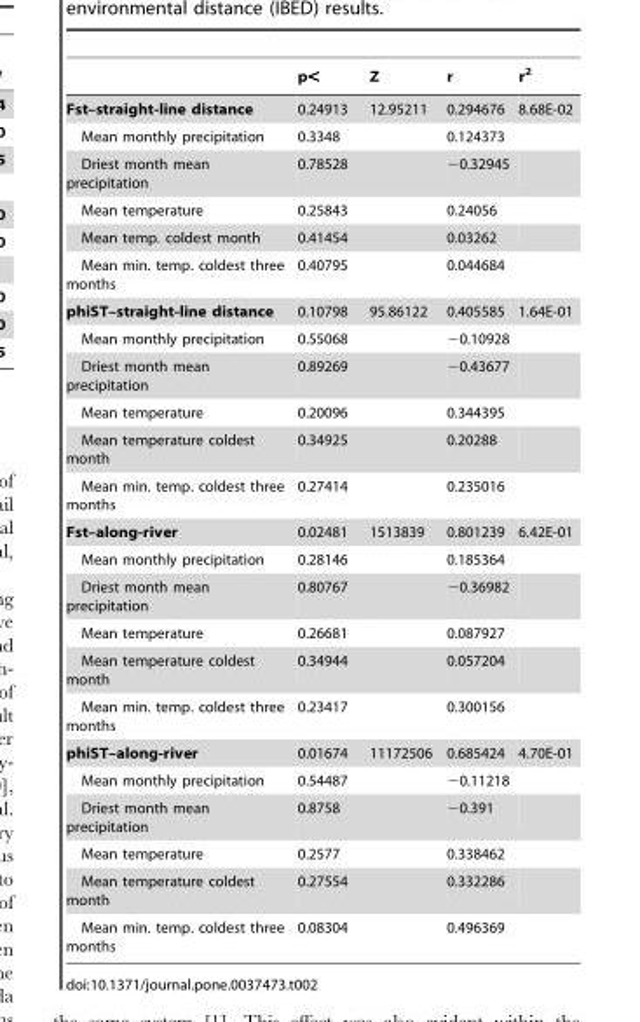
<table><thead><tr><td></td><td>p&lt;</td><td>Z</td><td>r</td><td>r<sup>2</sup></td></tr></thead><tbody><tr><td>Fst–straight-line distance</td><td>0.24913</td><td>12.95211</td><td>0.294676</td><td>8.68E-02</td></tr><tr><td>Mean monthly precipitation</td><td>0.3348</td><td></td><td>0.124373</td><td></td></tr><tr><td>Driest month mean precipitation</td><td>0.78528</td><td></td><td>−0.32945</td><td></td></tr><tr><td>Mean temperature</td><td>0.25843</td><td></td><td>0.24056</td><td></td></tr><tr><td>Mean temp. coldest month</td><td>0.41454</td><td></td><td>0.03262</td><td></td></tr><tr><td>Mean min. temp. coldest three months</td><td>0.40795</td><td></td><td>0.044684</td><td></td></tr><tr><td>phiST–straight-line distance</td><td>0.10798</td><td>95.86122</td><td>0.405585</td><td>1.64E-01</td></tr><tr><td>Mean monthly precipitation</td><td>0.55068</td><td></td><td>−0.10928</td><td></td></tr><tr><td>Driest month mean precipitation</td><td>0.89269</td><td></td><td>−0.43677</td><td></td></tr><tr><td>Mean temperature</td><td>0.20096</td><td></td><td>0.344395</td><td></td></tr><tr><td>Mean temperature coldest month</td><td>0.34925</td><td></td><td>0.20288</td><td></td></tr><tr><td>Mean min. temp. coldest three months</td><td>0.27414</td><td></td><td>0.235016</td><td></td></tr><tr><td>Fst–along-river</td><td>0.02481</td><td>1513839</td><td>0.801239</td><td>6.42E-01</td></tr><tr><td>Mean monthly precipitation</td><td>0.28146</td><td></td><td>0.185364</td><td></td></tr><tr><td>Driest month mean precipitation</td><td>0.80767</td><td></td><td>−0.36982</td><td></td></tr><tr><td>Mean temperature</td><td>0.26681</td><td></td><td>0.087927</td><td></td></tr><tr><td>Mean temperature coldest month</td><td>0.34944</td><td></td><td>0.057204</td><td></td></tr><tr><td>Mean min. temp. coldest three months</td><td>0.23417</td><td></td><td>0.300156</td><td></td></tr><tr><td>phiST–along-river</td><td>0.01674</td><td>11172506</td><td>0.685424</td><td>4.70E-01</td></tr><tr><td>Mean monthly precipitation</td><td>0.54487</td><td></td><td>−0.11218</td><td></td></tr><tr><td>Driest month mean precipitation</td><td>0.8758</td><td></td><td>−0.391</td><td></td></tr><tr><td>Mean temperature</td><td>0.2577</td><td></td><td>0.338462</td><td></td></tr><tr><td>Mean temperature coldest month</td><td>0.27554</td><td></td><td>0.332286</td><td></td></tr><tr><td>Mean min. temp. coldest three months</td><td>0.08304</td><td></td><td>0.496369</td><td></td></tr></tbody></table>